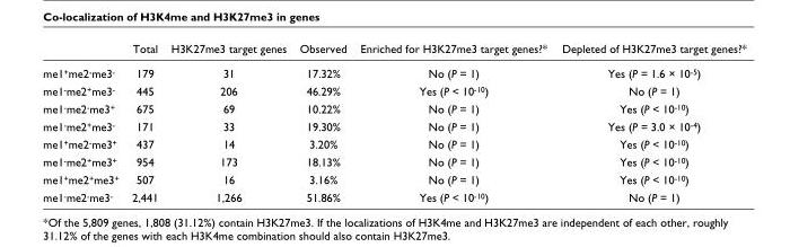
<table><thead><tr><td></td><td>Total</td><td>H3K27me3 target genes</td><td>Observed</td><td>Enriched for H3K27me3 target genes?*</td><td>Depleted of H3K27me3 target genes?*</td></tr></thead><tbody><tr><td>me1<sup>+</sup>me2<sup>-</sup>me3<sup>-</sup></td><td>179</td><td>31</td><td>17.32%</td><td>No (P = 1)</td><td>Yes (P = 1.6 × 10<sup>-5</sup>)</td></tr><tr><td>me1<sup>-</sup>me2<sup>+</sup>me3<sup>-</sup></td><td>445</td><td>206</td><td>46.29%</td><td>Yes (P &lt; 10<sup>-10</sup>)</td><td>No (P = 1)</td></tr><tr><td>me1<sup>-</sup>me2<sup>-</sup>me3<sup>+</sup></td><td>675</td><td>69</td><td>10.22%</td><td>No (P = 1)</td><td>Yes (P &lt; 10<sup>-10</sup>)</td></tr><tr><td>me1<sup>-</sup>me2<sup>+</sup>me3<sup>-</sup></td><td>171</td><td>33</td><td>19.30%</td><td>No (P = 1)</td><td>Yes (P = 3.0 × 10<sup>-4</sup>)</td></tr><tr><td>me1<sup>+</sup>me2<sup>-</sup>me3<sup>+</sup></td><td>437</td><td>14</td><td>3.20%</td><td>No (P = 1)</td><td>Yes (P &lt; 10<sup>-10</sup>)</td></tr><tr><td>me1<sup>-</sup>me2<sup>+</sup>me3<sup>+</sup></td><td>954</td><td>173</td><td>18.13%</td><td>No (P = 1)</td><td>Yes (P &lt; 10<sup>-10</sup>)</td></tr><tr><td>me1<sup>+</sup>me2<sup>+</sup>me3<sup>+</sup></td><td>507</td><td>16</td><td>3.16%</td><td>No (P = 1)</td><td>Yes (P &lt; 10<sup>-10</sup>)</td></tr><tr><td>me1<sup>-</sup>me2<sup>-</sup>me3<sup>-</sup></td><td>2,441</td><td>1,266</td><td>51.86%</td><td>Yes (P &lt; 10<sup>-10</sup>)</td><td>No (P = 1)</td></tr></tbody></table>